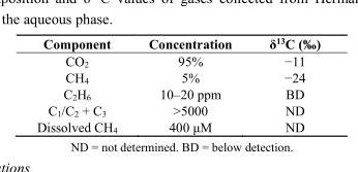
<table><thead><tr><td>Component</td><td>Concentration</td><td>δ<sup>13</sup>C (‰)</td></tr></thead><tbody><tr><td>CO<sub>2</sub></td><td>95%</td><td>−11</td></tr><tr><td>CH<sub>4</sub></td><td>5%</td><td>−24</td></tr><tr><td>C<sub>2</sub>H<sub>6</sub></td><td>10–20 ppm</td><td>BD</td></tr><tr><td>C<sub>1</sub>/C<sub>2</sub> + C<sub>3</sub></td><td>&gt;5000</td><td>ND</td></tr><tr><td>Dissolved CH<sub>4</sub></td><td>400 μM</td><td>ND</td></tr></tbody></table>